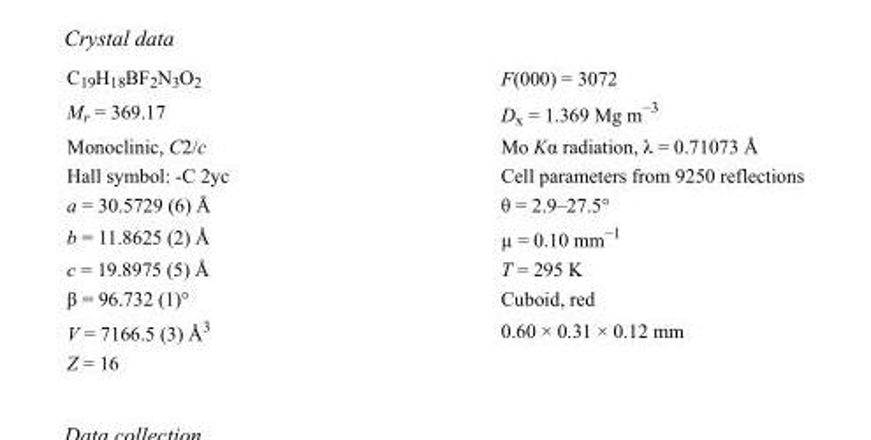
<table><tbody><tr><td>C<sub>19</sub>H<sub>18</sub>BF<sub>2</sub>N<sub>3</sub>O<sub>2</sub></td><td>F(000) = 3072</td></tr><tr><td>M<sub>r</sub> = 369.17</td><td>D<sub>x</sub> = 1.369 Mg m<sup>−3</sup></td></tr><tr><td>Monoclinic, C2/c</td><td>Mo Kα radiation, λ = 0.71073 Å</td></tr><tr><td>Hall symbol: -C 2yc</td><td>Cell parameters from 9250 reflections</td></tr><tr><td>a = 30.5729 (6) Å</td><td>θ = 2.9–27.5°</td></tr><tr><td>b = 11.8625 (2) Å</td><td>µ = 0.10 mm<sup>−1</sup></td></tr><tr><td>c = 19.8975 (5) Å</td><td>T = 295 K</td></tr><tr><td>β = 96.732 (1)°</td><td>Cuboid, red</td></tr><tr><td>V = 7166.5 (3) Å<sup>3</sup></td><td>0.60 × 0.31 × 0.12 mm</td></tr><tr><td>Z = 16</td><td></td></tr></tbody></table>